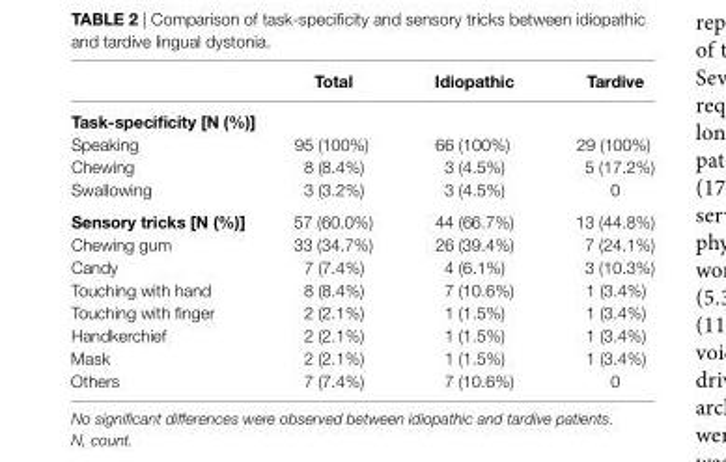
<table><thead><tr><td></td><td>Total</td><td>idiopathic</td><td>Tardive</td></tr></thead><tbody><tr><td colspan="4">Task-specificity [n (%)]</td></tr><tr><td>Speaking</td><td>95 (100%)</td><td>66 (100%)</td><td>29 (100%)</td></tr><tr><td>Chewing</td><td>8 (8.4%)</td><td>3 (4.5%)</td><td>5 (17.2%)</td></tr><tr><td>Swallowing</td><td>3 (3.2%)</td><td>3 (4.5%)</td><td>0</td></tr><tr><td>sensory tricks [n (%)]</td><td>57 (60.0%)</td><td>44 (66.7%)</td><td>13 (44.8%)</td></tr><tr><td>Chewing gum</td><td>33 (34.7%)</td><td>26 (39.4%)</td><td>7 (24.1%)</td></tr><tr><td>Candy</td><td>7 (7.4%)</td><td>4 (6.1%)</td><td>3 (10.3%)</td></tr><tr><td>Touching with hand</td><td>8 (8.4%)</td><td>7 (10.6%)</td><td>1 (3.4%)</td></tr><tr><td>Touching with finger</td><td>2 (2.1%)</td><td>1 (1.5%)</td><td>1 (3.4%)</td></tr><tr><td>Handkerchief</td><td>2 (2.1%)</td><td>1 (1.5%)</td><td>1 (3.4%)</td></tr><tr><td>Mask</td><td>2 (2.1%)</td><td>1 (1.5%)</td><td>1 (3.4%)</td></tr><tr><td>Others</td><td>7 (7.4%)</td><td>7 (10.6%)</td><td>0</td></tr></tbody></table>